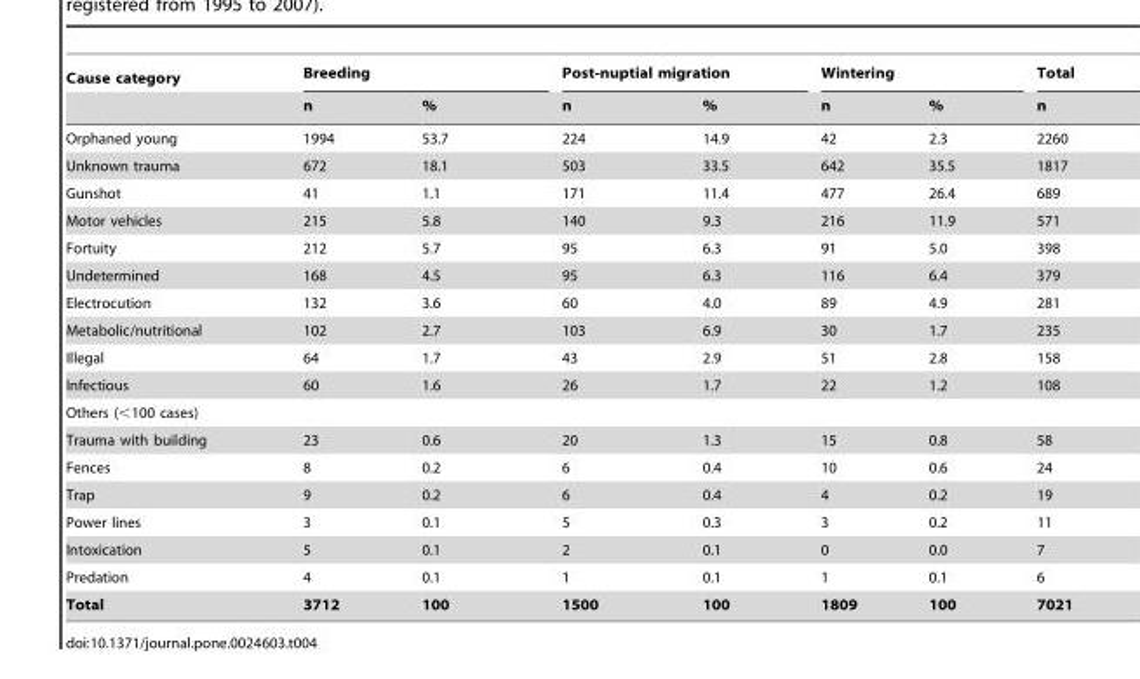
<table><thead><tr><td rowspan="2">Cause category</td><td colspan="2">Breeding</td><td colspan="2">Post-nuptial migration</td><td colspan="2">Wintering</td><td rowspan="2">Total n</td></tr><tr><td>n</td><td>%</td><td>n</td><td>%</td><td>n</td><td>%</td></tr></thead><tbody><tr><td>Orphaned young</td><td>1994</td><td>53.7</td><td>224</td><td>14.9</td><td>42</td><td>2.3</td><td>2260</td></tr><tr><td>Unknown trauma</td><td>672</td><td>18.1</td><td>503</td><td>33.5</td><td>642</td><td>35.5</td><td>1817</td></tr><tr><td>Gunshot</td><td>41</td><td>1.1</td><td>171</td><td>11.4</td><td>477</td><td>26.4</td><td>689</td></tr><tr><td>Motor vehicles</td><td>215</td><td>5.8</td><td>140</td><td>9.3</td><td>216</td><td>11.9</td><td>571</td></tr><tr><td>Fortuity</td><td>212</td><td>5.7</td><td>95</td><td>6.3</td><td>91</td><td>5.0</td><td>398</td></tr><tr><td>Undetermined</td><td>168</td><td>4.5</td><td>95</td><td>6.3</td><td>116</td><td>6.4</td><td>379</td></tr><tr><td>Electrocution</td><td>132</td><td>3.6</td><td>60</td><td>4.0</td><td>89</td><td>4.9</td><td>281</td></tr><tr><td>Metabolic/nutritional</td><td>102</td><td>2.7</td><td>103</td><td>6.9</td><td>30</td><td>1.7</td><td>235</td></tr><tr><td>Illegal</td><td>64</td><td>1.7</td><td>43</td><td>2.9</td><td>51</td><td>2.8</td><td>158</td></tr><tr><td>Infectious</td><td>60</td><td>1.6</td><td>26</td><td>1.7</td><td>22</td><td>1.2</td><td>108</td></tr><tr><td colspan="8">Others (&lt;100 cases)</td></tr><tr><td>Trauma with building</td><td>23</td><td>0.6</td><td>20</td><td>1.3</td><td>15</td><td>0.8</td><td>58</td></tr><tr><td>Fences</td><td>8</td><td>0.2</td><td>6</td><td>0.4</td><td>10</td><td>0.6</td><td>24</td></tr><tr><td>Trap</td><td>9</td><td>0.2</td><td>6</td><td>0.4</td><td>4</td><td>0.2</td><td>19</td></tr><tr><td>Power lines</td><td>3</td><td>0.1</td><td>5</td><td>0.3</td><td>3</td><td>0.2</td><td>11</td></tr><tr><td>Intoxication</td><td>5</td><td>0.1</td><td>2</td><td>0.1</td><td>0</td><td>0.0</td><td>7</td></tr><tr><td>Predation</td><td>4</td><td>0.1</td><td>1</td><td>0.1</td><td>1</td><td>0.1</td><td>6</td></tr><tr><td>Total</td><td>3712</td><td>100</td><td>1500</td><td>100</td><td>1809</td><td>100</td><td>7021</td></tr></tbody></table>